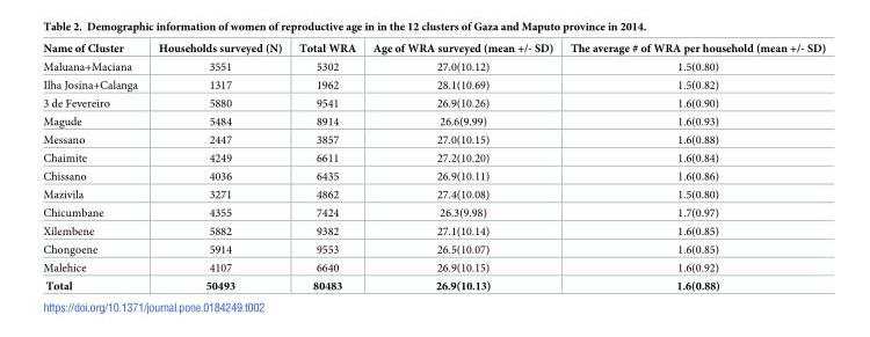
<table><thead><tr><td>Name of Cluster</td><td>Households surveyed (N)</td><td>Total WRA</td><td>Age of WRA surveyed (mean +/- SD)</td><td>The average # of WRA per household (mean +/- SD)</td></tr></thead><tbody><tr><td>Maluana+Maciana</td><td>3551</td><td>5302</td><td>27.0(10.12)</td><td>1.5(0.80)</td></tr><tr><td>Ilha Josina+Calanga</td><td>1317</td><td>1962</td><td>28.1(10.69)</td><td>1.5(0.82)</td></tr><tr><td>3 de Fevereiro</td><td>5880</td><td>9541</td><td>26.9(10.26)</td><td>1.6(0.90)</td></tr><tr><td>Magude</td><td>5484</td><td>8914</td><td>26.6(9.99)</td><td>1.6(0.93)</td></tr><tr><td>Messano</td><td>2447</td><td>3857</td><td>27.0(10.15)</td><td>1.6(0.88)</td></tr><tr><td>Chaimite</td><td>4249</td><td>6611</td><td>27.2(10.20)</td><td>1.6(0.84)</td></tr><tr><td>Chissano</td><td>4036</td><td>6435</td><td>26.9(10.11)</td><td>1.6(0.86)</td></tr><tr><td>Mazivila</td><td>3271</td><td>4862</td><td>27.4(10.08)</td><td>1.5(0.80)</td></tr><tr><td>Chicumbane</td><td>4355</td><td>7424</td><td>26.3(9.98)</td><td>1.7(0.97)</td></tr><tr><td>Xilembene</td><td>5882</td><td>9382</td><td>27.1(10.14)</td><td>1.6(0.85)</td></tr><tr><td>Chongoene</td><td>5914</td><td>9553</td><td>26.5(10.07)</td><td>1.6(0.85)</td></tr><tr><td>Malehice</td><td>4107</td><td>6640</td><td>26.9(10.15)</td><td>1.6(0.92)</td></tr><tr><td>Total</td><td>50493</td><td>80483</td><td>26.9(10.13)</td><td>1.6(0.88)</td></tr></tbody></table>